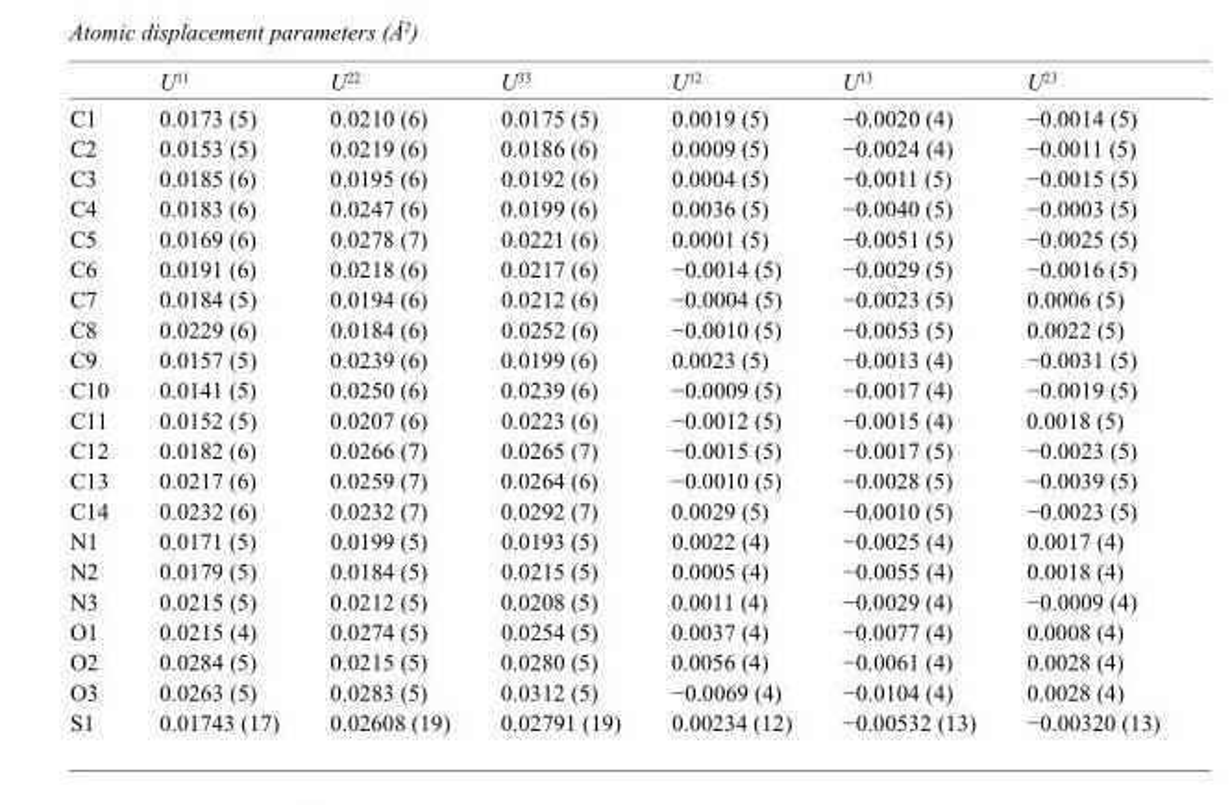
<table><thead><tr><td></td><td>U<sup>11</sup></td><td>U<sup>22</sup></td><td>U<sup>33</sup></td><td>U<sup>12</sup></td><td>U<sup>13</sup></td><td>U<sup>23</sup></td></tr></thead><tbody><tr><td>C1</td><td>0.0173 (5)</td><td>0.0210 (6)</td><td>0.0175 (5)</td><td>0.0019 (5)</td><td>−0.0020 (4)</td><td>−0.0014 (5)</td></tr><tr><td>C2</td><td>0.0153 (5)</td><td>0.0219 (6)</td><td>0.0186 (6)</td><td>0.0009 (5)</td><td>−0.0024 (4)</td><td>−0.0011 (5)</td></tr><tr><td>C3</td><td>0.0185 (6)</td><td>0.0195 (6)</td><td>0.0192 (6)</td><td>0.0004 (5)</td><td>−0.0011 (5)</td><td>−0.0015 (5)</td></tr><tr><td>C4</td><td>0.0183 (6)</td><td>0.0247 (6)</td><td>0.0199 (6)</td><td>0.0036 (5)</td><td>−0.0040 (5)</td><td>−0.0003 (5)</td></tr><tr><td>C5</td><td>0.0169 (6)</td><td>0.0278 (7)</td><td>0.0221 (6)</td><td>0.0001 (5)</td><td>−0.0051 (5)</td><td>−0.0025 (5)</td></tr><tr><td>C6</td><td>0.0191 (6)</td><td>0.0218 (6)</td><td>0.0217 (6)</td><td>−0.0014 (5)</td><td>−0.0029 (5)</td><td>−0.0016 (5)</td></tr><tr><td>C7</td><td>0.0184 (5)</td><td>0.0194 (6)</td><td>0.0212 (6)</td><td>−0.0004 (5)</td><td>−0.0023 (5)</td><td>0.0006 (5)</td></tr><tr><td>C8</td><td>0.0229 (6)</td><td>0.0184 (6)</td><td>0.0252 (6)</td><td>−0.0010 (5)</td><td>−0.0053 (5)</td><td>0.0022 (5)</td></tr><tr><td>C9</td><td>0.0157 (5)</td><td>0.0239 (6)</td><td>0.0199 (6)</td><td>0.0023 (5)</td><td>−0.0013 (4)</td><td>−0.0031 (5)</td></tr><tr><td>C10</td><td>0.0141 (5)</td><td>0.0250 (6)</td><td>0.0239 (6)</td><td>−0.0009 (5)</td><td>−0.0017 (4)</td><td>−0.0019 (5)</td></tr><tr><td>C11</td><td>0.0152 (5)</td><td>0.0207 (6)</td><td>0.0223 (6)</td><td>−0.0012 (5)</td><td>−0.0015 (4)</td><td>0.0018 (5)</td></tr><tr><td>C12</td><td>0.0182 (6)</td><td>0.0266 (7)</td><td>0.0265 (7)</td><td>−0.0015 (5)</td><td>−0.0017 (5)</td><td>−0.0023 (5)</td></tr><tr><td>C13</td><td>0.0217 (6)</td><td>0.0259 (7)</td><td>0.0264 (6)</td><td>−0.0010 (5)</td><td>−0.0028 (5)</td><td>−0.0039 (5)</td></tr><tr><td>C14</td><td>0.0232 (6)</td><td>0.0232 (7)</td><td>0.0292 (7)</td><td>0.0029 (5)</td><td>−0.0010 (5)</td><td>−0.0023 (5)</td></tr><tr><td>N1</td><td>0.0171 (5)</td><td>0.0199 (5)</td><td>0.0193 (5)</td><td>0.0022 (4)</td><td>−0.0025 (4)</td><td>0.0017 (4)</td></tr><tr><td>N2</td><td>0.0179 (5)</td><td>0.0184 (5)</td><td>0.0215 (5)</td><td>0.0005 (4)</td><td>−0.0055 (4)</td><td>0.0018 (4)</td></tr><tr><td>N3</td><td>0.0215 (5)</td><td>0.0212 (5)</td><td>0.0208 (5)</td><td>0.0011 (4)</td><td>−0.0029 (4)</td><td>−0.0009 (4)</td></tr><tr><td>O1</td><td>0.0215 (4)</td><td>0.0274 (5)</td><td>0.0254 (5)</td><td>0.0037 (4)</td><td>−0.0077 (4)</td><td>0.0008 (4)</td></tr><tr><td>O2</td><td>0.0284 (5)</td><td>0.0215 (5)</td><td>0.0280 (5)</td><td>0.0056 (4)</td><td>−0.0061 (4)</td><td>0.0028 (4)</td></tr><tr><td>O3</td><td>0.0263 (5)</td><td>0.0283 (5)</td><td>0.0312 (5)</td><td>−0.0069 (4)</td><td>−0.0104 (4)</td><td>0.0028 (4)</td></tr><tr><td>S1</td><td>0.01743 (17)</td><td>0.02608 (19)</td><td>0.02791 (19)</td><td>0.00234 (12)</td><td>−0.00532 (13)</td><td>−0.00320 (13)</td></tr></tbody></table>